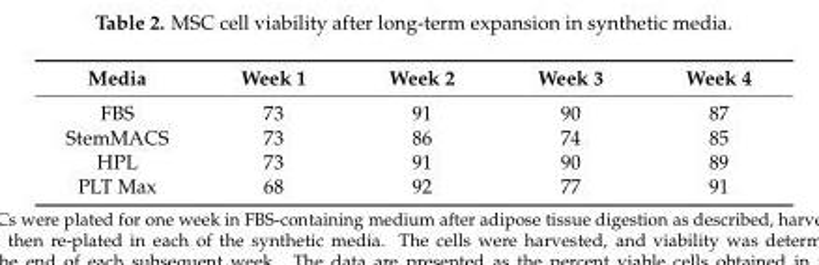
<table><thead><tr><td>Media</td><td>Week 1</td><td>Week 2</td><td>Week 3</td><td>Week 4</td></tr></thead><tbody><tr><td>FBS</td><td>73</td><td>91</td><td>90</td><td>87</td></tr><tr><td>StemMACS</td><td>73</td><td>86</td><td>74</td><td>85</td></tr><tr><td>HPL</td><td>73</td><td>91</td><td>90</td><td>89</td></tr><tr><td>PLT Max</td><td>68</td><td>92</td><td>77</td><td>91</td></tr></tbody></table>